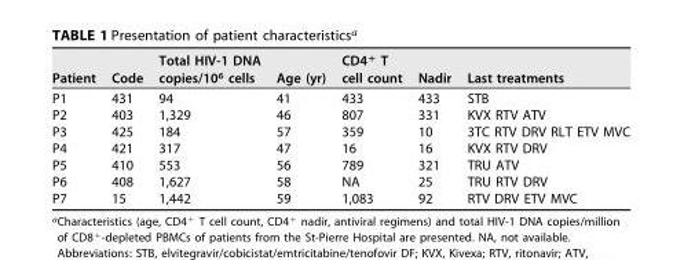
<table><thead><tr><td>Patient</td><td>Code</td><td>Total HIV-1 DNA copies/10<sup>6</sup> cells</td><td>Age (yr)</td><td>CD4<sup>+</sup> T cell count</td><td>Nadir</td><td>Last treatments</td></tr></thead><tbody><tr><td>P1</td><td>431</td><td>94</td><td>41</td><td>433</td><td>433</td><td>STB</td></tr><tr><td>P2</td><td>403</td><td>1,329</td><td>46</td><td>807</td><td>331</td><td>KVX RTV ATV</td></tr><tr><td>P3</td><td>425</td><td>184</td><td>57</td><td>359</td><td>10</td><td>3TC RTV DRV RLT ETV MVC</td></tr><tr><td>P4</td><td>421</td><td>317</td><td>47</td><td>16</td><td>16</td><td>KVX RTV DRV</td></tr><tr><td>P5</td><td>410</td><td>553</td><td>56</td><td>789</td><td>321</td><td>TRU ATV</td></tr><tr><td>P6</td><td>408</td><td>1,627</td><td>58</td><td>NA</td><td>25</td><td>TRU RTV DRV</td></tr><tr><td>P7</td><td>15</td><td>1,442</td><td>59</td><td>1,083</td><td>92</td><td>RTV DRV ETV MVC</td></tr></tbody></table>